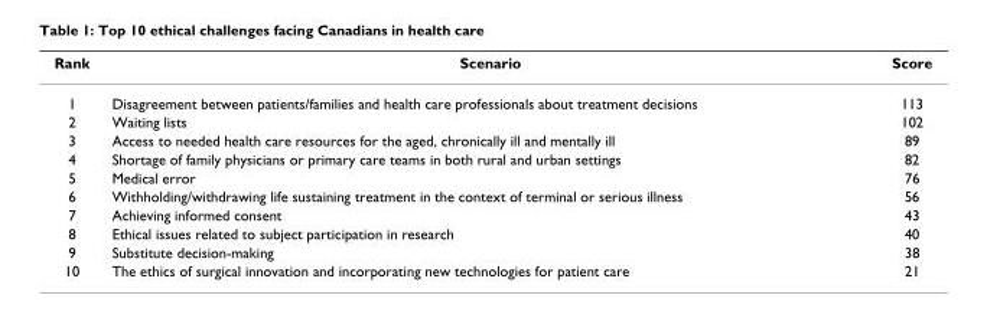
<table><thead><tr><td>Rank</td><td>Scenario</td><td>Score</td></tr></thead><tbody><tr><td>1</td><td>Disagreement between patients/families and health care professionals about treatment decisions</td><td>113</td></tr><tr><td>2</td><td>Waiting lists</td><td>102</td></tr><tr><td>3</td><td>Access to needed health care resources for the aged, chronically ill and mentally ill</td><td>89</td></tr><tr><td>4</td><td>Shortage of family physicians or primary care teams in both rural and urban settings</td><td>82</td></tr><tr><td>5</td><td>Medical error</td><td>76</td></tr><tr><td>6</td><td>Withholding/withdrawing life sustaining treatment in the context of terminal or serious illness</td><td>56</td></tr><tr><td>7</td><td>Achieving informed consent</td><td>43</td></tr><tr><td>8</td><td>Ethical issues related to subject participation in research</td><td>40</td></tr><tr><td>9</td><td>Substitute decision-making</td><td>38</td></tr><tr><td>10</td><td>The ethics of surgical innovation and incorporating new technologies for patient care</td><td>21</td></tr></tbody></table>